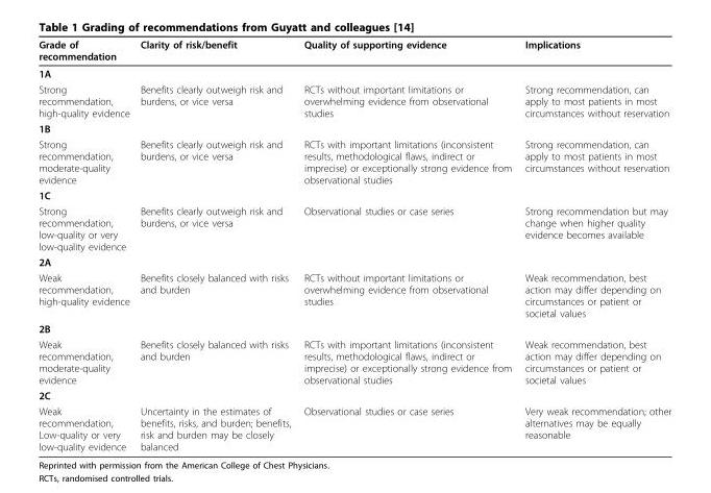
<table><thead><tr><td>Grade of recommendation</td><td>Clarity of risk/benefit</td><td>Quality of supporting evidence</td><td>Implications</td></tr></thead><tbody><tr><td colspan="4">1A</td></tr><tr><td>Strong recommendation, high-quality evidence</td><td>Benefits clearly outweigh risk and burdens, or vice versa</td><td>RCTs without important limitations or overwhelming evidence from observational studies</td><td>Strong recommendation, can apply to most patients in most circumstances without reservation</td></tr><tr><td colspan="4">1B</td></tr><tr><td>Strong recommendation, moderate-quality evidence</td><td>Benefits clearly outweigh risk and burdens, or vice versa</td><td>RCTs with important limitations (inconsistent results, methodological flaws, indirect or imprecise) or exceptionally strong evidence from observational studies</td><td>Strong recommendation, can apply to most patients in most circumstances without reservation</td></tr><tr><td colspan="4">1C</td></tr><tr><td>Strong recommendation, low-quality or very low-quality evidence</td><td>Benefits clearly outweigh risk and burdens, or vice versa</td><td>Observational studies or case series</td><td>Strong recommendation but may change when higher quality evidence becomes available</td></tr><tr><td colspan="4">2A</td></tr><tr><td>Weak recommendation, high-quality evidence</td><td>Benefits closely balanced with risks and burden</td><td>RCTs without important limitations or overwhelming evidence from observational studies</td><td>Weak recommendation, best action may differ depending on circumstances or patient or societal values</td></tr><tr><td colspan="4">2B</td></tr><tr><td>Weak recommendation, moderate-quality evidence</td><td>Benefits closely balanced with risks and burden</td><td>RCTs with important limitations (inconsistent results, methodological flaws, indirect or imprecise) or exceptionally strong evidence from observational studies</td><td>Weak recommendation, best action may differ depending on circumstances or patient or societal values</td></tr><tr><td colspan="4">2C</td></tr><tr><td>Weak recommendation, Low-quality or very low-quality evidence</td><td>Uncertainty in the estimates of benefits, risks, and burden; benefits, risk and burden may be closely balanced</td><td>Observational studies or case series</td><td>Very weak recommendation; other alternatives may be equally reasonable</td></tr></tbody></table>